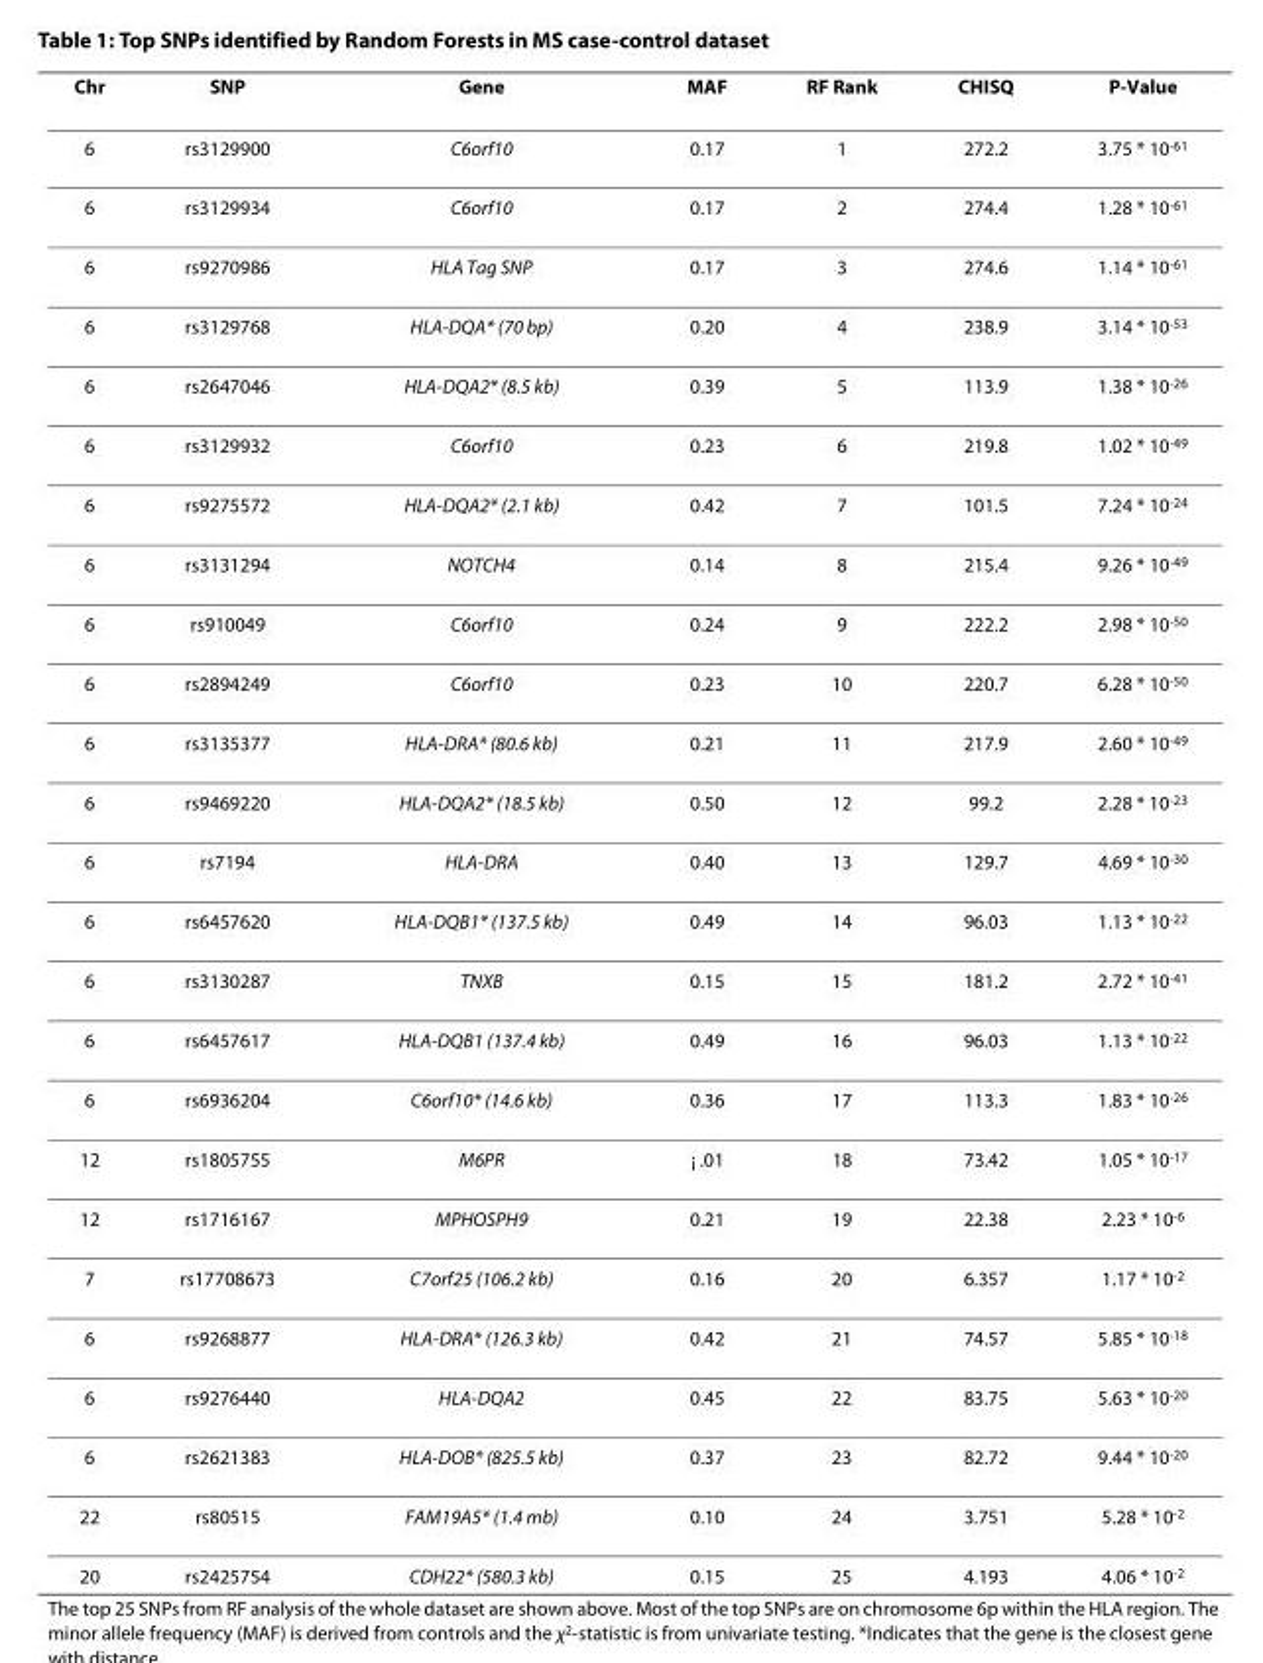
<table><thead><tr><td>Chr</td><td>SNP</td><td>Gene</td><td>MAF</td><td>RF Rank</td><td>CHISQ</td><td>P-Value</td></tr></thead><tbody><tr><td>6</td><td>rs3129900</td><td>C6orf10</td><td>0.17</td><td>1</td><td>272.2</td><td>3.75 * 10<sup>-61</sup></td></tr><tr><td>6</td><td>rs3129934</td><td>C6orf10</td><td>0.17</td><td>2</td><td>274.4</td><td>1.28 * 10<sup>-61</sup></td></tr><tr><td>6</td><td>rs9270986</td><td>HLA Tag SNP</td><td>0.17</td><td>3</td><td>274.6</td><td>1.14 * 10<sup>-61</sup></td></tr><tr><td>6</td><td>rs3129768</td><td>HLA-DQA* (70 bp)</td><td>0.20</td><td>4</td><td>238.9</td><td>3.14 * 10<sup>-53</sup></td></tr><tr><td>6</td><td>rs2647046</td><td>HLA-DQA2* (8.5 kb)</td><td>0.39</td><td>5</td><td>113.9</td><td>1.38 * 10<sup>-26</sup></td></tr><tr><td>6</td><td>rs3129932</td><td>C6orf10</td><td>0.23</td><td>6</td><td>219.8</td><td>1.02 * 10<sup>-49</sup></td></tr><tr><td>6</td><td>rs9275572</td><td>HLA-DQA2* (2.1 kb)</td><td>0.42</td><td>7</td><td>101.5</td><td>7.24 * 10<sup>-24</sup></td></tr><tr><td>6</td><td>rs3131294</td><td>NOTCH4</td><td>0.14</td><td>8</td><td>215.4</td><td>9.26 * 10<sup>-49</sup></td></tr><tr><td>6</td><td>rs910049</td><td>C6orf10</td><td>0.24</td><td>9</td><td>222.2</td><td>2.98 * 10<sup>-50</sup></td></tr><tr><td>6</td><td>rs2894249</td><td>C6orf10</td><td>0.23</td><td>10</td><td>220.7</td><td>6.28 * 10<sup>-50</sup></td></tr><tr><td>6</td><td>rs3135377</td><td>HLA-DRA* (80.6 kb)</td><td>0.21</td><td>11</td><td>217.9</td><td>2.60 * 10<sup>-49</sup></td></tr><tr><td>6</td><td>rs9469220</td><td>HLA-DQA2* (18.5 kb)</td><td>0.50</td><td>12</td><td>99.2</td><td>2.28 * 10<sup>-23</sup></td></tr><tr><td>6</td><td>rs7194</td><td>HLA-DRA</td><td>0.40</td><td>13</td><td>129.7</td><td>4.69 * 10<sup>-30</sup></td></tr><tr><td>6</td><td>rs6457620</td><td>HLA-DQB1* (137.5 kb)</td><td>0.49</td><td>14</td><td>96.03</td><td>1.13 * 10<sup>-22</sup></td></tr><tr><td>6</td><td>rs3130287</td><td>TNXB</td><td>0.15</td><td>15</td><td>181.2</td><td>2.72 * 10<sup>-41</sup></td></tr><tr><td>6</td><td>rs6457617</td><td>HLA-DQB1 (137.4 kb)</td><td>0.49</td><td>16</td><td>96.03</td><td>1.13 * 10<sup>-22</sup></td></tr><tr><td>6</td><td>rs6936204</td><td>C6orf10* (14.6 kb)</td><td>0.36</td><td>17</td><td>113.3</td><td>1.83 * 10<sup>-26</sup></td></tr><tr><td>12</td><td>rs1805755</td><td>M6PR</td><td>¡ .01</td><td>18</td><td>73.42</td><td>1.05 * 10<sup>-17</sup></td></tr><tr><td>12</td><td>rs1716167</td><td>MPHOSPH9</td><td>0.21</td><td>19</td><td>22.38</td><td>2.23 * 10<sup>-6</sup></td></tr><tr><td>7</td><td>rs17708673</td><td>C7orf25 (106.2 kb)</td><td>0.16</td><td>20</td><td>6.357</td><td>1.17 * 10<sup>-2</sup></td></tr><tr><td>6</td><td>rs9268877</td><td>HLA-DRA* (126.3 kb)</td><td>0.42</td><td>21</td><td>74.57</td><td>5.85 * 10<sup>-18</sup></td></tr><tr><td>6</td><td>rs9276440</td><td>HLA-DQA2</td><td>0.45</td><td>22</td><td>83.75</td><td>5.63 * 10<sup>-20</sup></td></tr><tr><td>6</td><td>rs2621383</td><td>HLA-DOB* (825.5 kb)</td><td>0.37</td><td>23</td><td>82.72</td><td>9.44 * 10<sup>-20</sup></td></tr><tr><td>22</td><td>rs80515</td><td>FAM19A5* (1.4 mb)</td><td>0.10</td><td>24</td><td>3.751</td><td>5.28 * 10<sup>-2</sup></td></tr><tr><td>20</td><td>rs2425754</td><td>CDH22* (580.3 kb)</td><td>0.15</td><td>25</td><td>4.193</td><td>4.06 * 10<sup>-2</sup></td></tr></tbody></table>